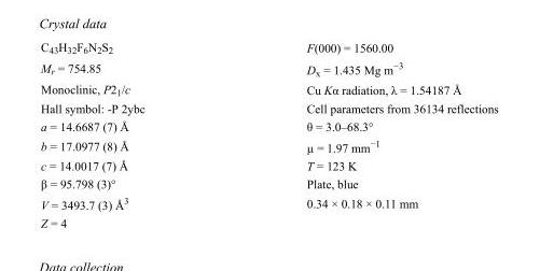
<table><tbody><tr><td>C<sub>43</sub>H<sub>32</sub>F<sub>6</sub>N<sub>2</sub>S<sub>2</sub></td><td>F(000) = 1560.00</td></tr><tr><td>M<sub>r</sub> = 754.85</td><td>D<sub>x</sub> = 1.435 Mg m<sup>−3</sup></td></tr><tr><td>Monoclinic, P2<sub>1</sub>/c</td><td>Cu Kα radiation, λ = 1.54187 Å</td></tr><tr><td>Hall symbol: -P 2ybc</td><td>Cell parameters from 36134 reflections</td></tr><tr><td>a = 14.6687 (7) Å</td><td>θ = 3.0–68.3°</td></tr><tr><td>b = 17.0977 (8) Å</td><td>µ = 1.97 mm<sup>−1</sup></td></tr><tr><td>c = 14.0017 (7) Å</td><td>T = 123 K</td></tr><tr><td>β = 95.798 (3)°</td><td>Plate, blue</td></tr><tr><td>V = 3493.7 (3) Å<sup>3</sup></td><td>0.34 × 0.18 × 0.11 mm</td></tr><tr><td>Z = 4</td><td></td></tr></tbody></table>